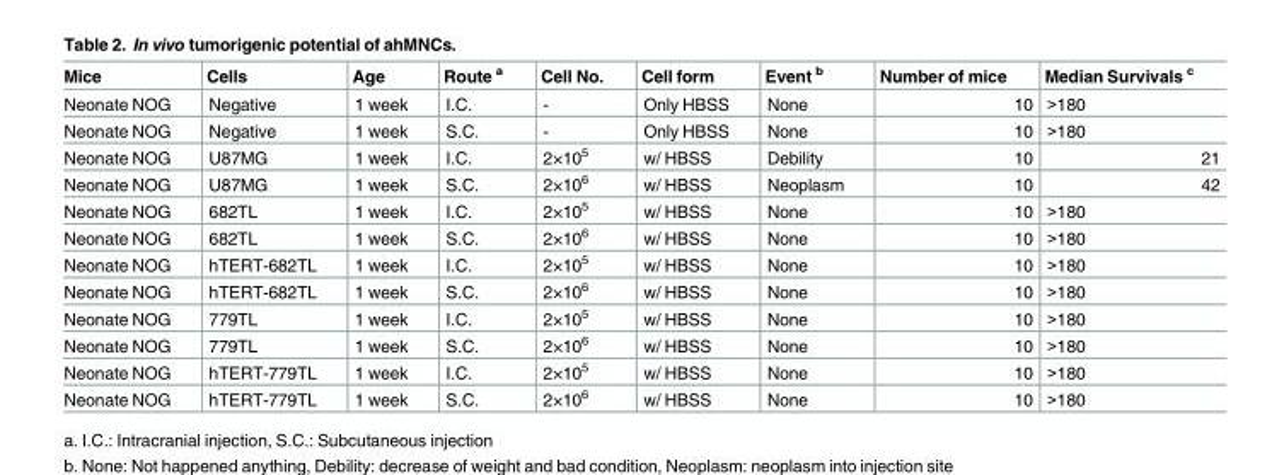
<table><thead><tr><td>Mice</td><td>Cells</td><td>Age</td><td>Route <sup>a</sup></td><td>Cell No.</td><td>Cell form</td><td>Event <sup>b</sup></td><td>Number of mice</td><td>Median Survivals <sup>c</sup></td></tr></thead><tbody><tr><td>Neonate NOG</td><td>Negative</td><td>1 week</td><td>I.C.</td><td>-</td><td>Only HBSS</td><td>None</td><td>10</td><td>&gt;180</td></tr><tr><td>Neonate NOG</td><td>Negative</td><td>1 week</td><td>S.C.</td><td>-</td><td>Only HBSS</td><td>None</td><td>10</td><td>&gt;180</td></tr><tr><td>Neonate NOG</td><td>U87MG</td><td>1 week</td><td>I.C.</td><td>2×10<sup>5</sup></td><td>w/ HBSS</td><td>Debility</td><td>10</td><td>21</td></tr><tr><td>Neonate NOG</td><td>U87MG</td><td>1 week</td><td>S.C.</td><td>2×10<sup>6</sup></td><td>w/ HBSS</td><td>Neoplasm</td><td>10</td><td>42</td></tr><tr><td>Neonate NOG</td><td>682TL</td><td>1 week</td><td>I.C.</td><td>2×10<sup>5</sup></td><td>w/ HBSS</td><td>None</td><td>10</td><td>&gt;180</td></tr><tr><td>Neonate NOG</td><td>682TL</td><td>1 week</td><td>S.C.</td><td>2×10<sup>6</sup></td><td>w/ HBSS</td><td>None</td><td>10</td><td>&gt;180</td></tr><tr><td>Neonate NOG</td><td>hTERT-682TL</td><td>1 week</td><td>I.C.</td><td>2×10<sup>5</sup></td><td>w/ HBSS</td><td>None</td><td>10</td><td>&gt;180</td></tr><tr><td>Neonate NOG</td><td>hTERT-682TL</td><td>1 week</td><td>S.C.</td><td>2×10<sup>6</sup></td><td>w/ HBSS</td><td>None</td><td>10</td><td>&gt;180</td></tr><tr><td>Neonate NOG</td><td>779TL</td><td>1 week</td><td>I.C.</td><td>2×10<sup>5</sup></td><td>w/ HBSS</td><td>None</td><td>10</td><td>&gt;180</td></tr><tr><td>Neonate NOG</td><td>779TL</td><td>1 week</td><td>S.C.</td><td>2×10<sup>6</sup></td><td>w/ HBSS</td><td>None</td><td>10</td><td>&gt;180</td></tr><tr><td>Neonate NOG</td><td>hTERT-779TL</td><td>1 week</td><td>I.C.</td><td>2×10<sup>5</sup></td><td>w/ HBSS</td><td>None</td><td>10</td><td>&gt;180</td></tr><tr><td>Neonate NOG</td><td>hTERT-779TL</td><td>1 week</td><td>S.C.</td><td>2×10<sup>6</sup></td><td>w/ HBSS</td><td>None</td><td>10</td><td>&gt;180</td></tr></tbody></table>